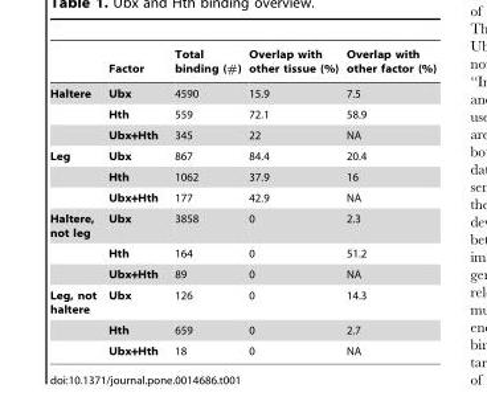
<table><thead><tr><td></td><td>Factor</td><td>Total binding (#)</td><td>Overlap with other tissue (%)</td><td>Overlap with other factor (%)</td></tr></thead><tbody><tr><td rowspan="3">Haltere</td><td>Ubx</td><td>4590</td><td>15.9</td><td>7.5</td></tr><tr><td>Hth</td><td>559</td><td>72.1</td><td>58.9</td></tr><tr><td>Ubx+Hth</td><td>345</td><td>22</td><td>NA</td></tr><tr><td rowspan="3">Leg</td><td>Ubx</td><td>867</td><td>84.4</td><td>20.4</td></tr><tr><td>Hth</td><td>1062</td><td>37.9</td><td>16</td></tr><tr><td>Ubx+Hth</td><td>177</td><td>42.9</td><td>NA</td></tr><tr><td rowspan="3">Haltere, not leg</td><td>Ubx</td><td>3858</td><td>0</td><td>2.3</td></tr><tr><td>Hth</td><td>164</td><td>0</td><td>51.2</td></tr><tr><td>Ubx+Hth</td><td>89</td><td>0</td><td>NA</td></tr><tr><td rowspan="3">Leg, not haltere</td><td>Ubx</td><td>126</td><td>0</td><td>14.3</td></tr><tr><td>Hth</td><td>659</td><td>0</td><td>2.7</td></tr><tr><td>Ubx+Hth</td><td>18</td><td>0</td><td>NA</td></tr></tbody></table>